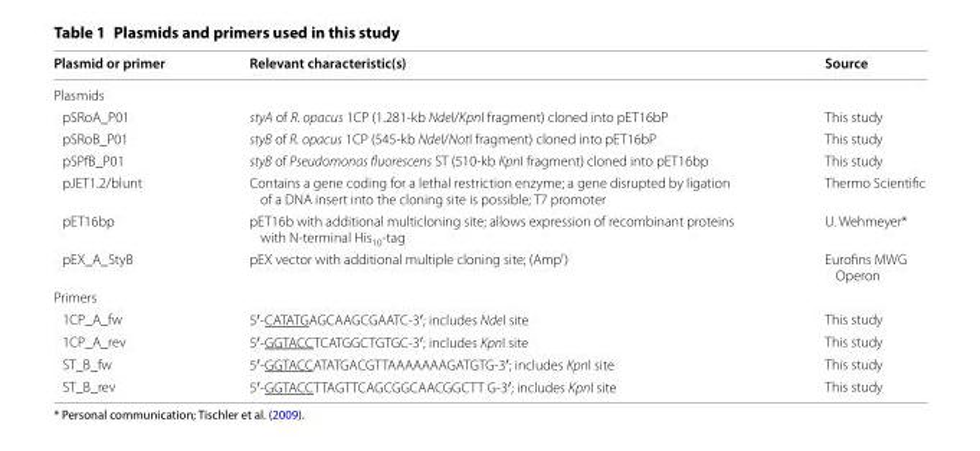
<table><thead><tr><td>Plasmid or primer</td><td>Relevant characteristic(s)</td><td>Source</td></tr></thead><tbody><tr><td colspan="3">Plasmids</td></tr><tr><td>pSRoA_P01</td><td>styA of R. opacus 1CP (1.281‑kb NdeI/KpnI fragment) cloned into pET16bP</td><td>This study</td></tr><tr><td>pSRoB_P01</td><td>styB of R. opacus 1CP (545‑kb NdeI/NotI fragment) cloned into pET16bP</td><td>This study</td></tr><tr><td>pSPfB_P01</td><td>styB of Pseudomonas fluorescens ST (510‑kb KpnI fragment) cloned into pET16bp</td><td>This study</td></tr><tr><td>pJET1.2/blunt</td><td>Contains a gene coding for a lethal restriction enzyme; a gene disrupted by ligation of a DNA insert into the cloning site is possible; T7 promoter</td><td>Thermo Scientific</td></tr><tr><td>pET16bp</td><td>pET16b with additional multicloning site; allows expression of recombinant proteins with N‑terminal His<sub>10</sub>‑tag</td><td>U. Wehmeyer*</td></tr><tr><td>pEX_A_StyB</td><td>pEX vector with additional multiple cloning site; (Amp<sup>r</sup>)</td><td>Eurofins MWG Operon</td></tr><tr><td colspan="3">Primers</td></tr><tr><td>1CP_A_fw</td><td>5′‑CATATGAGCAAGCGAATC‑3′; includes NdeI site</td><td>This study</td></tr><tr><td>1CP_A_rev</td><td>5′‑GGTACCTCATGGCTGTGC‑3′; includes KpnI site</td><td>This study</td></tr><tr><td>ST_B_fw</td><td>5′‑GGTACCATATGACGTTAAAAAAAGATGTG‑3′; includes KpnI site</td><td>This study</td></tr><tr><td>ST_B_rev</td><td>5′‑GGTACCTTAGTTCAGCGGCAACGGCTT G‑3′; includes KpnI site</td><td>This study</td></tr></tbody></table>